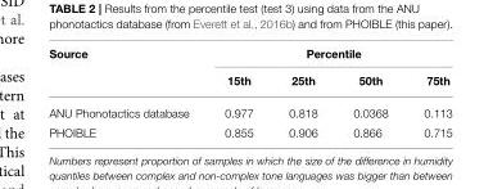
<table><thead><tr><td rowspan="2">Source</td><td colspan="4">Percentile</td></tr><tr><td>15th</td><td>25th</td><td>50th</td><td>75th</td></tr></thead><tbody><tr><td>ANU Phonotactics database</td><td>0.977</td><td>0.818</td><td>0.0368</td><td>0.113</td></tr><tr><td>PHOIBLE</td><td>0.855</td><td>0.906</td><td>0.866</td><td>0.715</td></tr></tbody></table>